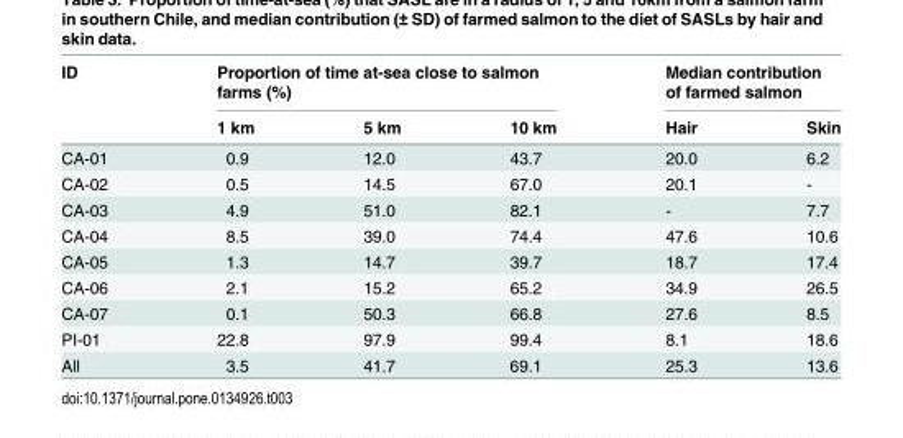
<table><thead><tr><td rowspan="2">ID</td><td colspan="3">Proportion of time at-sea close to salmon farms (%)</td><td colspan="2">Median contribution of farmed salmon</td></tr><tr><td>1 km</td><td>5 km</td><td>10 km</td><td>Hair</td><td>Skin</td></tr></thead><tbody><tr><td>CA-01</td><td>0.9</td><td>12.0</td><td>43.7</td><td>20.0</td><td>6.2</td></tr><tr><td>CA-02</td><td>0.5</td><td>14.5</td><td>67.0</td><td>20.1</td><td>-</td></tr><tr><td>CA-03</td><td>4.9</td><td>51.0</td><td>82.1</td><td>-</td><td>7.7</td></tr><tr><td>CA-04</td><td>8.5</td><td>39.0</td><td>74.4</td><td>47.6</td><td>10.6</td></tr><tr><td>CA-05</td><td>1.3</td><td>14.7</td><td>39.7</td><td>18.7</td><td>17.4</td></tr><tr><td>CA-06</td><td>2.1</td><td>15.2</td><td>65.2</td><td>34.9</td><td>26.5</td></tr><tr><td>CA-07</td><td>0.1</td><td>50.3</td><td>66.8</td><td>27.6</td><td>8.5</td></tr><tr><td>PI-01</td><td>22.8</td><td>97.9</td><td>99.4</td><td>8.1</td><td>18.6</td></tr><tr><td>All</td><td>3.5</td><td>41.7</td><td>69.1</td><td>25.3</td><td>13.6</td></tr></tbody></table>